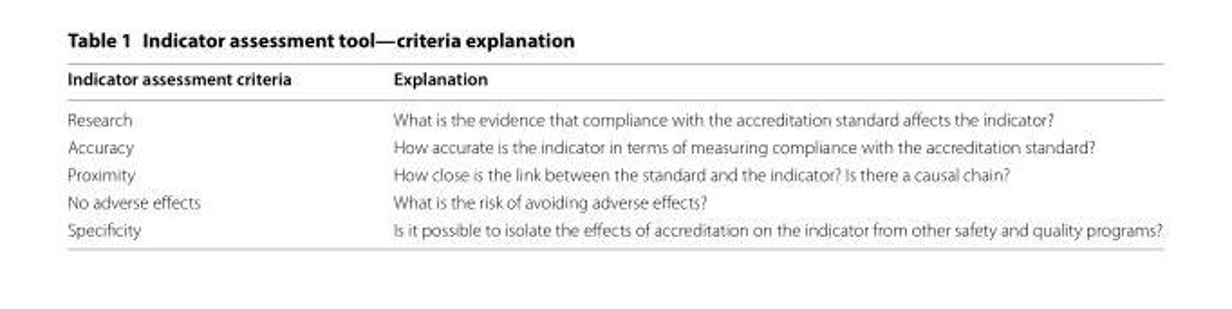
<table><thead><tr><td>Indicator assessment criteria</td><td>Explanation</td></tr></thead><tbody><tr><td>Research</td><td>What is the evidence that compliance with the accreditation standard affects the indicator?</td></tr><tr><td>Accuracy</td><td>How accurate is the indicator in terms of measuring compliance with the accreditation standard?</td></tr><tr><td>Proximity</td><td>How close is the link between the standard and the indicator? Is there a causal chain?</td></tr><tr><td>No adverse effects</td><td>What is the risk of avoiding adverse effects?</td></tr><tr><td>Specificity</td><td>Is it possible to isolate the effects of accreditation on the indicator from other safety and quality programs?</td></tr></tbody></table>